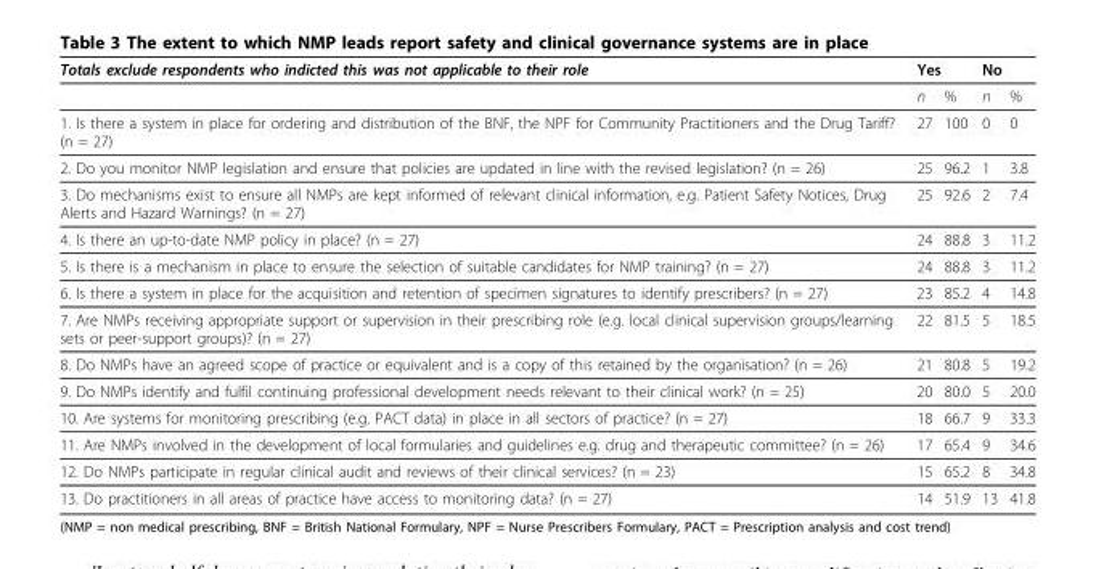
<table><thead><tr><td rowspan="2">Totals exclude respondents who indicted this was not applicable to their role</td><td colspan="2">Yes</td><td colspan="2">No</td></tr><tr><td>n</td><td>%</td><td>n</td><td>%</td></tr></thead><tbody><tr><td>1. Is there a system in place for ordering and distribution of the BNF, the NPF for Community Practitioners and the Drug Tariff? (n = 27)</td><td>27</td><td>100</td><td>0</td><td>0</td></tr><tr><td>2. Do you monitor NMP legislation and ensure that policies are updated in line with the revised legislation? (n = 26)</td><td>25</td><td>96.2</td><td>1</td><td>3.8</td></tr><tr><td>3. Do mechanisms exist to ensure all NMPs are kept informed of relevant clinical information, e.g. Patient Safety Notices, Drug Alerts and Hazard Warnings? (n = 27)</td><td>25</td><td>92.6</td><td>2</td><td>7.4</td></tr><tr><td>4. Is there an up-to-date NMP policy in place? (n = 27)</td><td>24</td><td>88.8</td><td>3</td><td>11.2</td></tr><tr><td>5. Is there is a mechanism in place to ensure the selection of suitable candidates for NMP training? (n = 27)</td><td>24</td><td>88.8</td><td>3</td><td>11.2</td></tr><tr><td>6. Is there a system in place for the acquisition and retention of specimen signatures to identify prescribers? (n = 27)</td><td>23</td><td>85.2</td><td>4</td><td>14.8</td></tr><tr><td>7. Are NMPs receiving appropriate support or supervision in their prescribing role (e.g. local clinical supervision groups/learning sets or peer-support groups)? (n = 27)</td><td>22</td><td>81.5</td><td>5</td><td>18.5</td></tr><tr><td>8. Do NMPs have an agreed scope of practice or equivalent and is a copy of this retained by the organisation? (n = 26)</td><td>21</td><td>80.8</td><td>5</td><td>19.2</td></tr><tr><td>9. Do NMPs identify and fulfil continuing professional development needs relevant to their clinical work? (n = 25)</td><td>20</td><td>80.0</td><td>5</td><td>20.0</td></tr><tr><td>10. Are systems for monitoring prescribing (e.g. PACT data) in place in all sectors of practice? (n = 27)</td><td>18</td><td>66.7</td><td>9</td><td>33.3</td></tr><tr><td>11. Are NMPs involved in the development of local formularies and guidelines e.g. drug and therapeutic committee? (n = 26)</td><td>17</td><td>65.4</td><td>9</td><td>34.6</td></tr><tr><td>12. Do NMPs participate in regular clinical audit and reviews of their clinical services? (n = 23)</td><td>15</td><td>65.2</td><td>8</td><td>34.8</td></tr><tr><td>13. Do practitioners in all areas of practice have access to monitoring data? (n = 27)</td><td>14</td><td>51.9</td><td>13</td><td>41.8</td></tr></tbody></table>